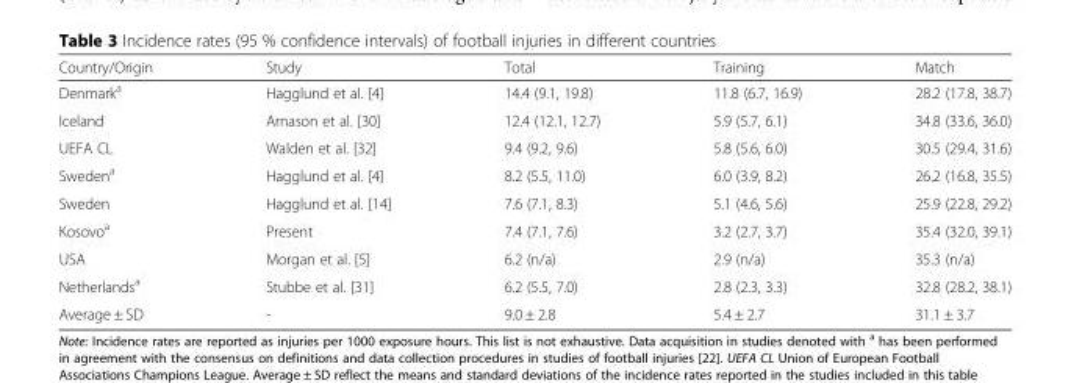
<table><thead><tr><td>Country/Origin</td><td>Study</td><td>Total</td><td>Training</td><td>Match</td></tr></thead><tbody><tr><td>Denmark<sup>a</sup></td><td>Hagglund et al. [4]</td><td>14.4 (9.1, 19.8)</td><td>11.8 (6.7, 16.9)</td><td>28.2 (17.8, 38.7)</td></tr><tr><td>Iceland</td><td>Arnason et al. [30]</td><td>12.4 (12.1, 12.7)</td><td>5.9 (5.7, 6.1)</td><td>34.8 (33.6, 36.0)</td></tr><tr><td>UEFA CL</td><td>Walden et al. [32]</td><td>9.4 (9.2, 9.6)</td><td>5.8 (5.6, 6.0)</td><td>30.5 (29.4, 31.6)</td></tr><tr><td>Sweden<sup>a</sup></td><td>Hagglund et al. [4]</td><td>8.2 (5.5, 11.0)</td><td>6.0 (3.9, 8.2)</td><td>26.2 (16.8, 35.5)</td></tr><tr><td>Sweden</td><td>Hagglund et al. [14]</td><td>7.6 (7.1, 8.3)</td><td>5.1 (4.6, 5.6)</td><td>25.9 (22.8, 29.2)</td></tr><tr><td>Kosovo<sup>a</sup></td><td>Present</td><td>7.4 (7.1, 7.6)</td><td>3.2 (2.7, 3.7)</td><td>35.4 (32.0, 39.1)</td></tr><tr><td>USA</td><td>Morgan et al. [5]</td><td>6.2 (n/a)</td><td>2.9 (n/a)</td><td>35.3 (n/a)</td></tr><tr><td>Netherlands<sup>a</sup></td><td>Stubbe et al. [31]</td><td>6.2 (5.5, 7.0)</td><td>2.8 (2.3, 3.3)</td><td>32.8 (28.2, 38.1)</td></tr><tr><td>Average ± SD</td><td>-</td><td>9.0 ± 2.8</td><td>5.4 ± 2.7</td><td>31.1 ± 3.7</td></tr></tbody></table>